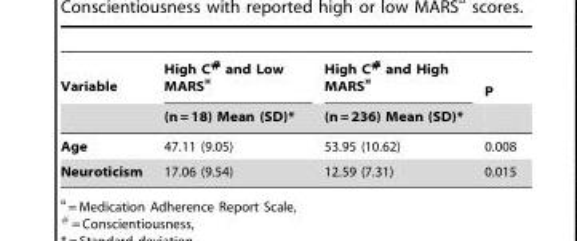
<table><thead><tr><td rowspan="2">Variable</td><td rowspan="2">High C# and Low MARS¤ (n = 18) Mean (SD)*</td><td rowspan="2">High C# and High MARS¤ (n = 236) Mean (SD)*</td><td rowspan="2">P</td></tr><tr></tr></thead><tbody><tr><td>Age</td><td>47.11 (9.05)</td><td>53.95 (10.62)</td><td>0.008</td></tr><tr><td>Neuroticism</td><td>17.06 (9.54)</td><td>12.59 (7.31)</td><td>0.015</td></tr></tbody></table>